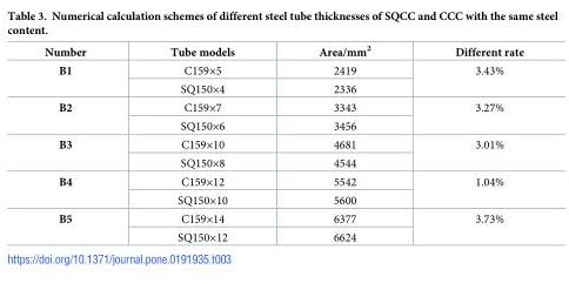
<table><thead><tr><td>Number</td><td>Tube models</td><td>Area/mm<sup>2</sup></td><td>Different rate</td></tr></thead><tbody><tr><td rowspan="2">B1</td><td>C159×5</td><td>2419</td><td rowspan="2">3.43%</td></tr><tr><td>SQ150×4</td><td>2336</td></tr><tr><td rowspan="2">B2</td><td>C159×7</td><td>3343</td><td rowspan="2">3.27%</td></tr><tr><td>SQ150×6</td><td>3456</td></tr><tr><td rowspan="2">B3</td><td>C159×10</td><td>4681</td><td rowspan="2">3.01%</td></tr><tr><td>SQ150×8</td><td>4544</td></tr><tr><td rowspan="2">B4</td><td>C159×12</td><td>5542</td><td rowspan="2">1.04%</td></tr><tr><td>SQ150×10</td><td>5600</td></tr><tr><td rowspan="2">B5</td><td>C159×14</td><td>6377</td><td rowspan="2">3.73%</td></tr><tr><td>SQ150×12</td><td>6624</td></tr></tbody></table>